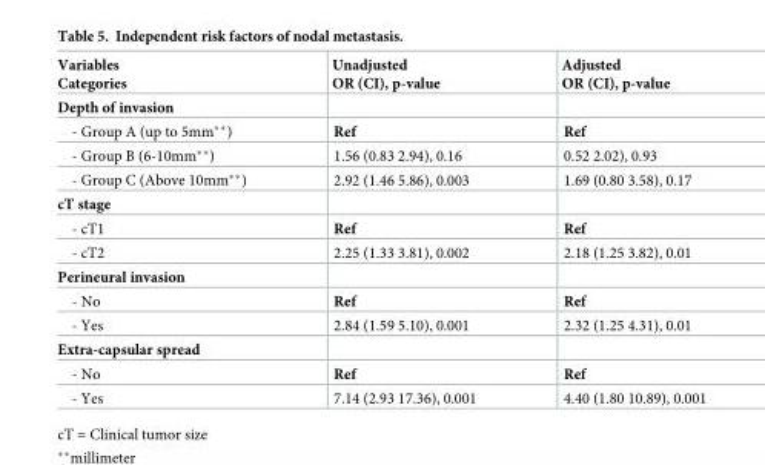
<table><thead><tr><td>Variables Categories</td><td>Unadjusted OR (CI), p-value</td><td>Adjusted OR (CI), p-value</td></tr></thead><tbody><tr><td colspan="3">Depth of invasion</td></tr><tr><td>- Group A (up to 5mm**)</td><td>Ref</td><td>Ref</td></tr><tr><td>- Group B (6-10mm**)</td><td>1.56 (0.83 2.94), 0.16</td><td>0.52 2.02), 0.93</td></tr><tr><td>- Group C (Above 10mm**)</td><td>2.92 (1.46 5.86), 0.003</td><td>1.69 (0.80 3.58), 0.17</td></tr><tr><td colspan="3">cT stage</td></tr><tr><td>- cT1</td><td>Ref</td><td>Ref</td></tr><tr><td>- cT2</td><td>2.25 (1.33 3.81), 0.002</td><td>2.18 (1.25 3.82), 0.01</td></tr><tr><td colspan="3">Perineural invasion</td></tr><tr><td>- No</td><td>Ref</td><td>Ref</td></tr><tr><td>- Yes</td><td>2.84 (1.59 5.10), 0.001</td><td>2.32 (1.25 4.31), 0.01</td></tr><tr><td colspan="3">Extra-capsular spread</td></tr><tr><td>- No</td><td>Ref</td><td>Ref</td></tr><tr><td>- Yes</td><td>7.14 (2.93 17.36), 0.001</td><td>4.40 (1.80 10.89), 0.001</td></tr></tbody></table>